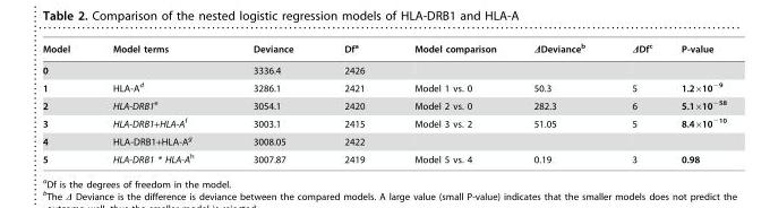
<table><thead><tr><td>Model</td><td>Model terms</td><td>Deviance</td><td>Df<sup>a</sup></td><td>Model comparison</td><td>ΔDeviance<sup>b</sup></td><td>ΔDf<sup>c</sup></td><td>P-value</td></tr></thead><tbody><tr><td>0</td><td></td><td>3336.4</td><td>2426</td><td></td><td></td><td></td><td></td></tr><tr><td>1</td><td>HLA-A<sup>d</sup></td><td>3286.1</td><td>2421</td><td>Model 1 vs. 0</td><td>50.3</td><td>5</td><td>1.2×10<sup>−9</sup></td></tr><tr><td>2</td><td>HLA-DRB1e</td><td>3054.1</td><td>2420</td><td>Model 2 vs. 0</td><td>282.3</td><td>6</td><td>5.1×10<sup>−58</sup></td></tr><tr><td>3</td><td>HLA-DRB1+HLA-Af</td><td>3003.1</td><td>2415</td><td>Model 3 vs. 2</td><td>51.05</td><td>5</td><td>8.4×10<sup>−10</sup></td></tr><tr><td>4</td><td>HLA-DRB1+HLA-A<sup>g</sup></td><td>3008.05</td><td>2422</td><td></td><td></td><td></td><td></td></tr><tr><td>5</td><td>HLA-DRB1 * HLA-Ah</td><td>3007.87</td><td>2419</td><td>Model 5 vs. 4</td><td>0.19</td><td>3</td><td>0.98</td></tr></tbody></table>